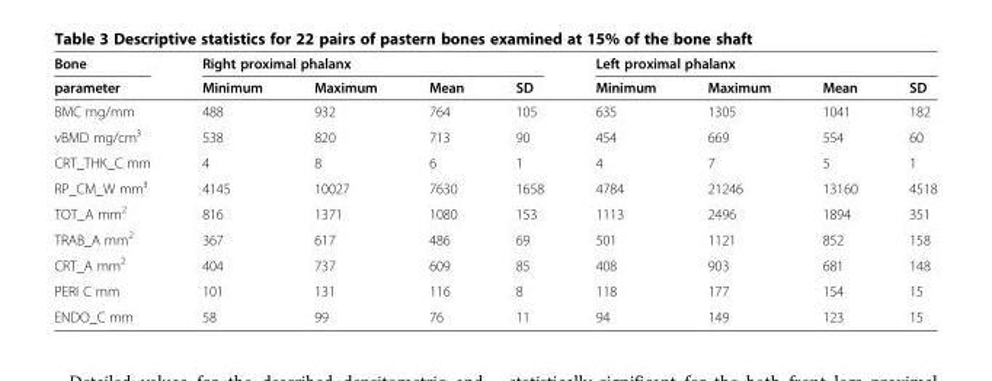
<table><thead><tr><td rowspan="2">Bone parameter</td><td colspan="4">Right proximal phalanx</td><td colspan="4">Left proximal phalanx</td></tr><tr><td>Minimum</td><td>Maximum</td><td>Mean</td><td>SD</td><td>Minimum</td><td>Maximum</td><td>Mean</td><td>SD</td></tr></thead><tbody><tr><td>BMC mg/mm</td><td>488</td><td>932</td><td>764</td><td>105</td><td>635</td><td>1305</td><td>1041</td><td>182</td></tr><tr><td>vBMD mg/cm³</td><td>538</td><td>820</td><td>713</td><td>90</td><td>454</td><td>669</td><td>554</td><td>60</td></tr><tr><td>CRT_THK_C mm</td><td>4</td><td>8</td><td>6</td><td>1</td><td>4</td><td>7</td><td>5</td><td>1</td></tr><tr><td>RP_CM_W mm³</td><td>4145</td><td>10027</td><td>7630</td><td>1658</td><td>4784</td><td>21246</td><td>13160</td><td>4518</td></tr><tr><td>TOT_A mm<sup>2</sup></td><td>816</td><td>1371</td><td>1080</td><td>153</td><td>1113</td><td>2496</td><td>1894</td><td>351</td></tr><tr><td>TRAB_A mm<sup>2</sup></td><td>367</td><td>617</td><td>486</td><td>69</td><td>501</td><td>1121</td><td>852</td><td>158</td></tr><tr><td>CRT_A mm<sup>2</sup></td><td>404</td><td>737</td><td>609</td><td>85</td><td>408</td><td>903</td><td>681</td><td>148</td></tr><tr><td>PERI C mm</td><td>101</td><td>131</td><td>116</td><td>8</td><td>118</td><td>177</td><td>154</td><td>15</td></tr><tr><td>ENDO_C mm</td><td>58</td><td>99</td><td>76</td><td>11</td><td>94</td><td>149</td><td>123</td><td>15</td></tr></tbody></table>